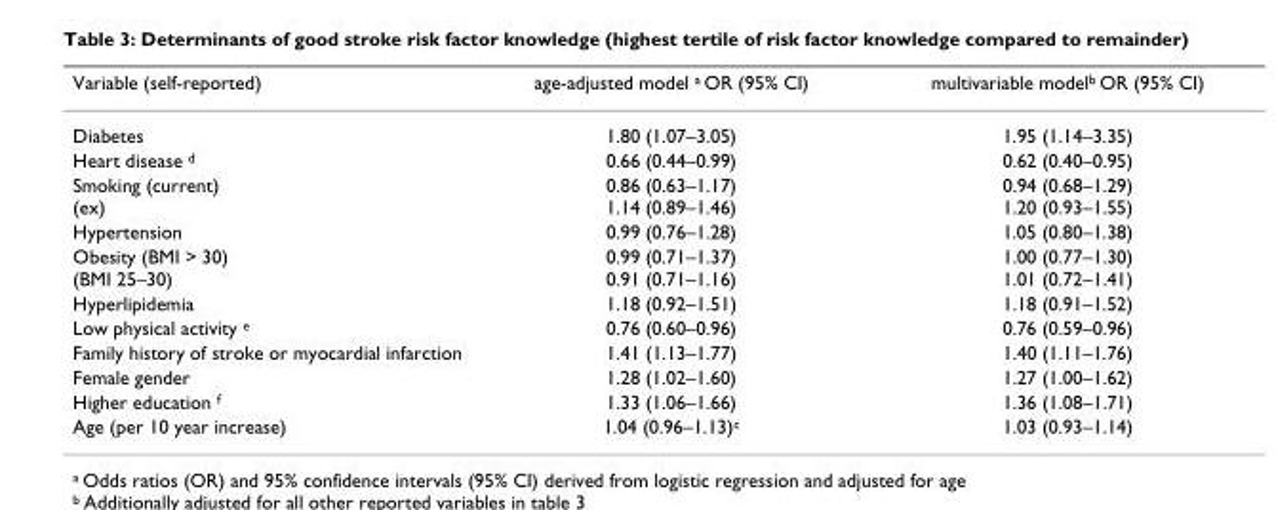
<table><thead><tr><td>Variable (self-reported)</td><td>age-adjusted model <sup>a</sup> OR (95% CI)</td><td>multivariable model<sup>b</sup> OR (95% CI)</td></tr></thead><tbody><tr><td>Diabetes</td><td>1.80 (1.07–3.05)</td><td>1.95 (1.14–3.35)</td></tr><tr><td>Heart disease <sup>d</sup></td><td>0.66 (0.44–0.99)</td><td>0.62 (0.40–0.95)</td></tr><tr><td>Smoking (current) (ex)</td><td>0.86 (0.63–1.17) 1.14 (0.89–1.46)</td><td>0.94 (0.68–1.29) 1.20 (0.93–1.55)</td></tr><tr><td>Hypertension</td><td>0.99 (0.76–1.28)</td><td>1.05 (0.80–1.38)</td></tr><tr><td>Obesity (BMI &gt; 30) (BMI 25–30)</td><td>0.99 (0.71–1.37) 0.91 (0.71–1.16)</td><td>1.00 (0.77–1.30) 1.01 (0.72–1.41)</td></tr><tr><td>Hyperlipidemia</td><td>1.18 (0.92–1.51)</td><td>1.18 (0.91–1.52)</td></tr><tr><td>Low physical activity <sup>e</sup></td><td>0.76 (0.60–0.96)</td><td>0.76 (0.59–0.96)</td></tr><tr><td>Family history of stroke or myocardial infarction</td><td>1.41 (1.13–1.77)</td><td>1.40 (1.11–1.76)</td></tr><tr><td>Female gender</td><td>1.28 (1.02–1.60)</td><td>1.27 (1.00–1.62)</td></tr><tr><td>Higher education <sup>f</sup></td><td>1.33 (1.06–1.66)</td><td>1.36 (1.08–1.71)</td></tr><tr><td>Age (per 10 year increase)</td><td>1.04 (0.96–1.13)<sup>c</sup></td><td>1.03 (0.93–1.14)</td></tr></tbody></table>